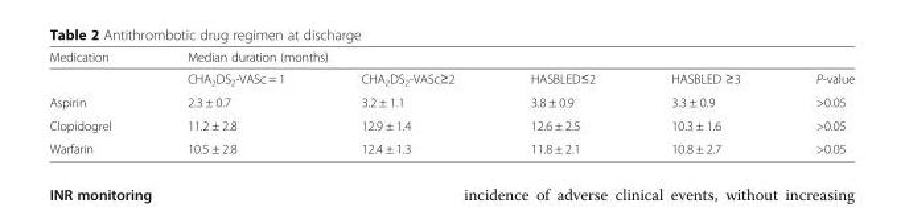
<table><thead><tr><td rowspan="2">Medication</td><td colspan="5">Median duration (months)</td></tr><tr><td>CHA<sub>2</sub>DS<sub>2</sub>-VASc = 1</td><td>CHA<sub>2</sub>DS<sub>2</sub>-VASc≥2</td><td>HASBLED≤2</td><td>HASBLED ≥3</td><td>P-value</td></tr></thead><tbody><tr><td>Aspirin</td><td>2.3 ± 0.7</td><td>3.2 ± 1.1</td><td>3.8 ± 0.9</td><td>3.3 ± 0.9</td><td>&gt;0.05</td></tr><tr><td>Clopidogrel</td><td>11.2 ± 2.8</td><td>12.9 ± 1.4</td><td>12.6 ± 2.5</td><td>10.3 ± 1.6</td><td>&gt;0.05</td></tr><tr><td>Warfarin</td><td>10.5 ± 2.8</td><td>12.4 ± 1.3</td><td>11.8 ± 2.1</td><td>10.8 ± 2.7</td><td>&gt;0.05</td></tr></tbody></table>